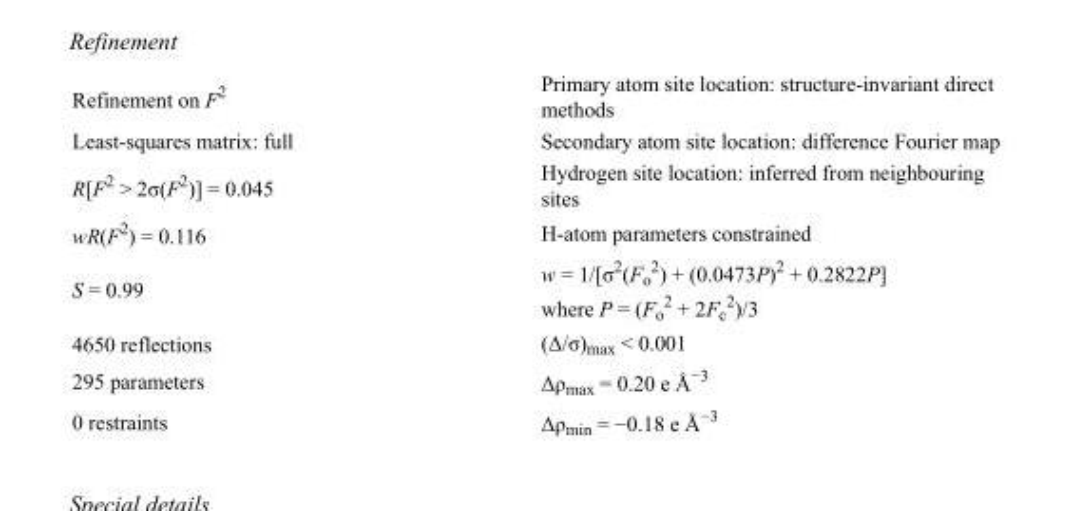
<table><tbody><tr><td>Refinement on F<sup>2</sup></td><td>Primary atom site location: structure-invariant direct methods</td></tr><tr><td>Least-squares matrix: full</td><td>Secondary atom site location: difference Fourier map</td></tr><tr><td>R[F<sup>2</sup> &gt; 2σ(F<sup>2</sup>)] = 0.045</td><td>Hydrogen site location: inferred from neighbouring sites</td></tr><tr><td>wR(F<sup>2</sup>) = 0.116</td><td>H-atom parameters constrained</td></tr><tr><td>S = 0.99</td><td>w = 1/[σ<sup>2</sup>(F<sub>o</sub> <sup>2</sup>) + (0.0473P)<sup>2</sup> + 0.2822P] where P = (F<sub>o</sub> <sup>2</sup> + 2F<sub>c</sub> <sup>2</sup>)/3</td></tr><tr><td>4650 reflections</td><td>(Δ/σ)<sub>max</sub> &lt; 0.001</td></tr><tr><td>295 parameters</td><td>Δρ<sub>max</sub> = 0.20 e Å<sup>−3</sup></td></tr><tr><td>0 restraints</td><td>Δρ<sub>min</sub> = −0.18 e Å<sup>−3</sup></td></tr></tbody></table>